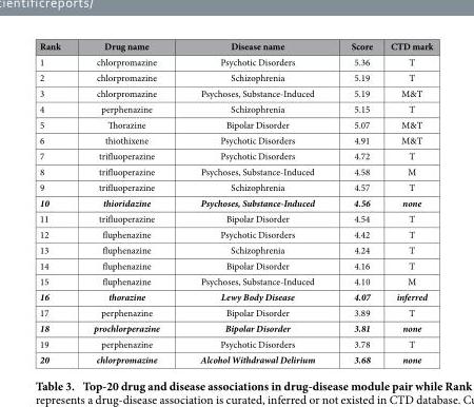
<table><thead><tr><td>Rank</td><td>Drug name</td><td>Disease name</td><td>Score</td><td>CTD mark</td></tr></thead><tbody><tr><td>1</td><td>chlorpromazine</td><td>Psychotic Disorders</td><td>5.36</td><td>T</td></tr><tr><td>2</td><td>chlorpromazine</td><td>Schizophrenia</td><td>5.19</td><td>T</td></tr><tr><td>3</td><td>chlorpromazine</td><td>Psychoses, Substance-Induced</td><td>5.19</td><td>M&amp;T</td></tr><tr><td>4</td><td>perphenazine</td><td>Schizophrenia</td><td>5.15</td><td>T</td></tr><tr><td>5</td><td>Thorazine</td><td>Bipolar Disorder</td><td>5.07</td><td>M&amp;T</td></tr><tr><td>6</td><td>thiothixene</td><td>Psychotic Disorders</td><td>4.91</td><td>M&amp;T</td></tr><tr><td>7</td><td>trifluoperazine</td><td>Psychotic Disorders</td><td>4.72</td><td>T</td></tr><tr><td>8</td><td>trifluoperazine</td><td>Psychoses, Substance-Induced</td><td>4.58</td><td>M</td></tr><tr><td>9</td><td>trifluoperazine</td><td>Schizophrenia</td><td>4.57</td><td>T</td></tr><tr><td>10</td><td>thioridazine</td><td>Psychoses, Substance-Induced</td><td>4.56</td><td>none</td></tr><tr><td>11</td><td>trifluoperazine</td><td>Bipolar Disorder</td><td>4.54</td><td>T</td></tr><tr><td>12</td><td>fluphenazine</td><td>Psychotic Disorders</td><td>4.42</td><td>T</td></tr><tr><td>13</td><td>fluphenazine</td><td>Schizophrenia</td><td>4.24</td><td>T</td></tr><tr><td>14</td><td>fluphenazine</td><td>Bipolar Disorder</td><td>4.16</td><td>T</td></tr><tr><td>15</td><td>fluphenazine</td><td>Psychoses, Substance-Induced</td><td>4.10</td><td>M</td></tr><tr><td>16</td><td>thorazine</td><td>Lewy Body Disease</td><td>4.07</td><td>inferred</td></tr><tr><td>17</td><td>perphenazine</td><td>Bipolar Disorder</td><td>3.89</td><td>T</td></tr><tr><td>18</td><td>prochlorperazine</td><td>Bipolar Disorder</td><td>3.81</td><td>none</td></tr><tr><td>19</td><td>perphenazine</td><td>Psychotic Disorders</td><td>3.78</td><td>T</td></tr><tr><td>20</td><td>chlorpromazine</td><td>Alcohol Withdrawal Delirium</td><td>3.68</td><td>none</td></tr></tbody></table>